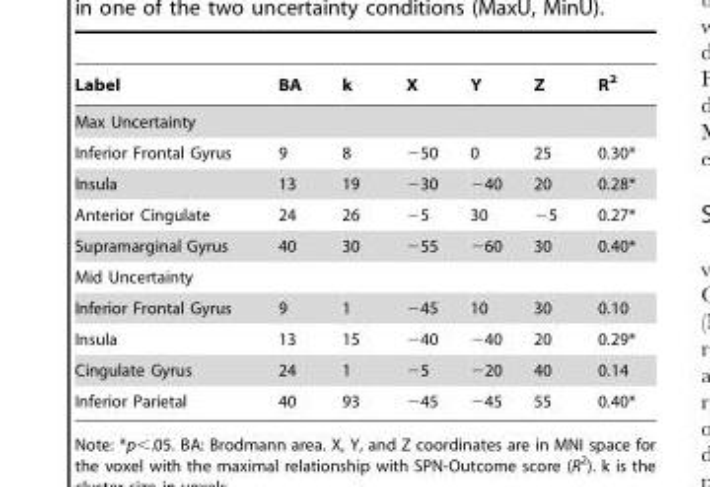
<table><thead><tr><td>Label</td><td>BA</td><td>k</td><td>X</td><td>Y</td><td>Z</td><td>R<sup>2</sup></td></tr></thead><tbody><tr><td colspan="7">Max Uncertainty</td></tr><tr><td>Inferior Frontal Gyrus</td><td>9</td><td>8</td><td>−50</td><td>0</td><td>25</td><td>0.30*</td></tr><tr><td>Insula</td><td>13</td><td>19</td><td>−30</td><td>−40</td><td>20</td><td>0.28*</td></tr><tr><td>Anterior Cingulate</td><td>24</td><td>26</td><td>−5</td><td>30</td><td>−5</td><td>0.27*</td></tr><tr><td>Supramarginal Gyrus</td><td>40</td><td>30</td><td>−55</td><td>−60</td><td>30</td><td>0.40*</td></tr><tr><td colspan="7">Mid Uncertainty</td></tr><tr><td>Inferior Frontal Gyrus</td><td>9</td><td>1</td><td>−45</td><td>10</td><td>30</td><td>0.10</td></tr><tr><td>Insula</td><td>13</td><td>15</td><td>−40</td><td>−40</td><td>20</td><td>0.29*</td></tr><tr><td>Cingulate Gyrus</td><td>24</td><td>1</td><td>−5</td><td>−20</td><td>40</td><td>0.14</td></tr><tr><td>Inferior Parietal</td><td>40</td><td>93</td><td>−45</td><td>−45</td><td>55</td><td>0.40*</td></tr></tbody></table>